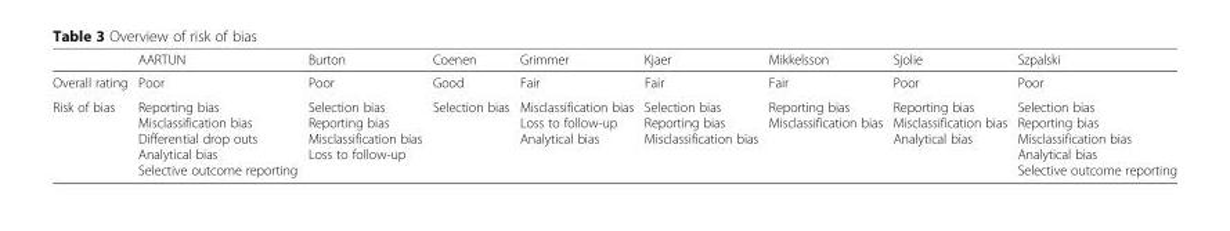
<table><thead><tr><td></td><td>AARTUN</td><td>Burton</td><td>Coenen</td><td>Grimmer</td><td>Kjaer</td><td>Mikkelsson</td><td>Sjolie</td><td>Szpalski</td></tr></thead><tbody><tr><td>Overall rating</td><td>Poor</td><td>Poor</td><td>Good</td><td>Fair</td><td>Fair</td><td>Fair</td><td>Poor</td><td>Poor</td></tr><tr><td>Risk of bias</td><td>Reporting bias Misclassification bias Differential drop outs Analytical bias Selective outcome reporting</td><td>Selection bias Reporting bias Misclassification bias Loss to follow-up</td><td>Selection bias</td><td>Misclassification bias Loss to follow-up Analytical bias</td><td>Selection bias Reporting bias Misclassification bias</td><td>Reporting bias Misclassification bias</td><td>Reporting bias Misclassification bias Analytical bias</td><td>Selection bias Reporting bias Misclassification bias Analytical bias Selective outcome reporting</td></tr></tbody></table>